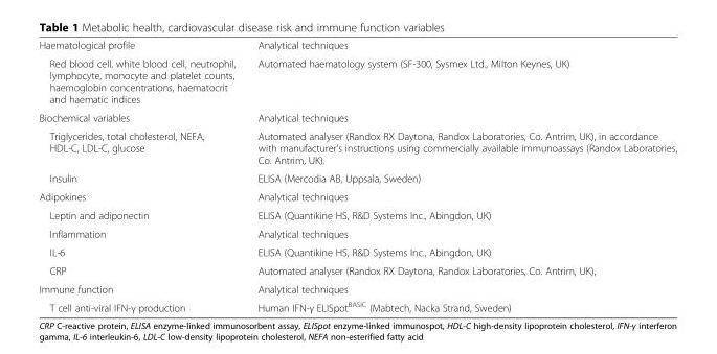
<table><tbody><tr><td>Haematological profile</td><td>Analytical techniques</td></tr><tr><td>Red blood cell, white blood cell, neutrophil, lymphocyte, monocyte and platelet counts, haemoglobin concentrations, haematocrit and haematic indices</td><td>Automated haematology system (SF-300, Sysmex Ltd., Milton Keynes, UK)</td></tr><tr><td>Biochemical variables</td><td>Analytical techniques</td></tr><tr><td>Triglycerides, total cholesterol, NEFA, HDL-C, LDL-C, glucose</td><td>Automated analyser (Randox RX Daytona, Randox Laboratories, Co. Antrim, UK), in accordance with manufacturer’s instructions using commercially available immunoassays (Randox Laboratories, Co. Antrim, UK).</td></tr><tr><td>Insulin</td><td>ELISA (Mercodia AB, Uppsala, Sweden)</td></tr><tr><td>Adipokines</td><td>Analytical techniques</td></tr><tr><td>Leptin and adiponectin</td><td>ELISA (Quantikine HS, R&amp;D Systems Inc., Abingdon, UK)</td></tr><tr><td>Inflammation</td><td>Analytical techniques</td></tr><tr><td>IL-6</td><td>ELISA (Quantikine HS, R&amp;D Systems Inc., Abingdon, UK)</td></tr><tr><td>CRP</td><td>Automated analyser (Randox RX Daytona, Randox Laboratories, Co. Antrim, UK),</td></tr><tr><td>Immune function</td><td>Analytical techniques</td></tr><tr><td>T cell anti-viral IFN-γ production</td><td>Human IFN-γ ELISpot<sup>BASIC</sup> (Mabtech, Nacka Strand, Sweden)</td></tr></tbody></table>